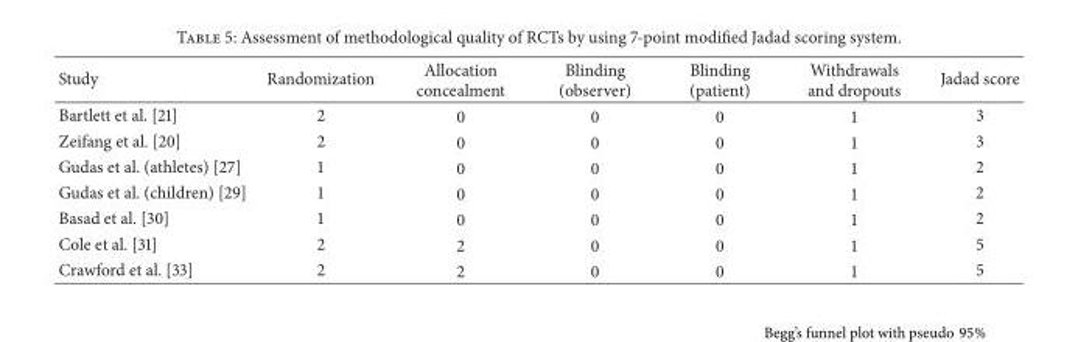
<table><thead><tr><td>Study</td><td>Randomization</td><td>Allocation concealment</td><td>Blinding (observer)</td><td>Blinding (patient)</td><td>Withdrawals and dropouts</td><td>Jadad score</td></tr></thead><tbody><tr><td>Bartlett et al. [21]</td><td>2</td><td>0</td><td>0</td><td>0</td><td>1</td><td>3</td></tr><tr><td>Zeifang et al. [20]</td><td>2</td><td>0</td><td>0</td><td>0</td><td>1</td><td>3</td></tr><tr><td>Gudas et al. (athletes) [27]</td><td>1</td><td>0</td><td>0</td><td>0</td><td>1</td><td>2</td></tr><tr><td>Gudas et al. (children) [29]</td><td>1</td><td>0</td><td>0</td><td>0</td><td>1</td><td>2</td></tr><tr><td>Basad et al. [30]</td><td>1</td><td>0</td><td>0</td><td>0</td><td>1</td><td>2</td></tr><tr><td>Cole et al. [31]</td><td>2</td><td>2</td><td>0</td><td>0</td><td>1</td><td>5</td></tr><tr><td>Crawford et al. [33]</td><td>2</td><td>2</td><td>0</td><td>0</td><td>1</td><td>5</td></tr></tbody></table>